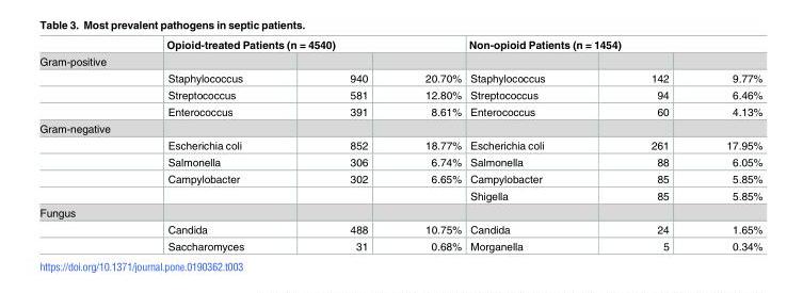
<table><thead><tr><td rowspan="2">Gram-positive</td><td colspan="3">Opioid-treated Patients (n = 4540)</td><td colspan="3">Non-opioid Patients (n = 1454)</td></tr><tr><td></td><td></td><td></td><td></td><td></td><td></td></tr></thead><tbody><tr><td></td><td>Staphylococcus</td><td>940</td><td>20.70%</td><td>Staphylococcus</td><td>142</td><td>9.77%</td></tr><tr><td></td><td>Streptococcus</td><td>581</td><td>12.80%</td><td>Streptococcus</td><td>94</td><td>6.46%</td></tr><tr><td></td><td>Enterococcus</td><td>391</td><td>8.61%</td><td>Enterococcus</td><td>60</td><td>4.13%</td></tr><tr><td colspan="7">Gram-negative</td></tr><tr><td></td><td>Escherichia coli</td><td>852</td><td>18.77%</td><td>Escherichia coli</td><td>261</td><td>17.95%</td></tr><tr><td></td><td>Salmonella</td><td>306</td><td>6.74%</td><td>Salmonella</td><td>88</td><td>6.05%</td></tr><tr><td></td><td>Campylobacter</td><td>302</td><td>6.65%</td><td>Campylobacter</td><td>85</td><td>5.85%</td></tr><tr><td></td><td></td><td></td><td></td><td>Shigella</td><td>85</td><td>5.85%</td></tr><tr><td colspan="7">Fungus</td></tr><tr><td></td><td>Candida</td><td>488</td><td>10.75%</td><td>Candida</td><td>24</td><td>1.65%</td></tr><tr><td></td><td>Saccharomyces</td><td>31</td><td>0.68%</td><td>Morganella</td><td>5</td><td>0.34%</td></tr></tbody></table>